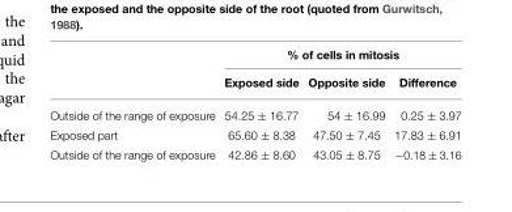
<table><thead><tr><td rowspan="2"></td><td colspan="3">% of cells in mitosis</td></tr><tr><td>Exposed side</td><td>Opposite side</td><td>Difference</td></tr></thead><tbody><tr><td>Outside of the range of exposure</td><td>54.25 ± 16.77</td><td>54 ± 16.99</td><td>0.25 ± 3.97</td></tr><tr><td>Exposed part</td><td>65.60 ± 8.38</td><td>47.50 ± 7.45</td><td>17.83 ± 6.91</td></tr><tr><td>Outside of the range of exposure</td><td>42.86 ± 8.60</td><td>43.05 ± 8.75</td><td>−0.18 ± 3.16</td></tr></tbody></table>